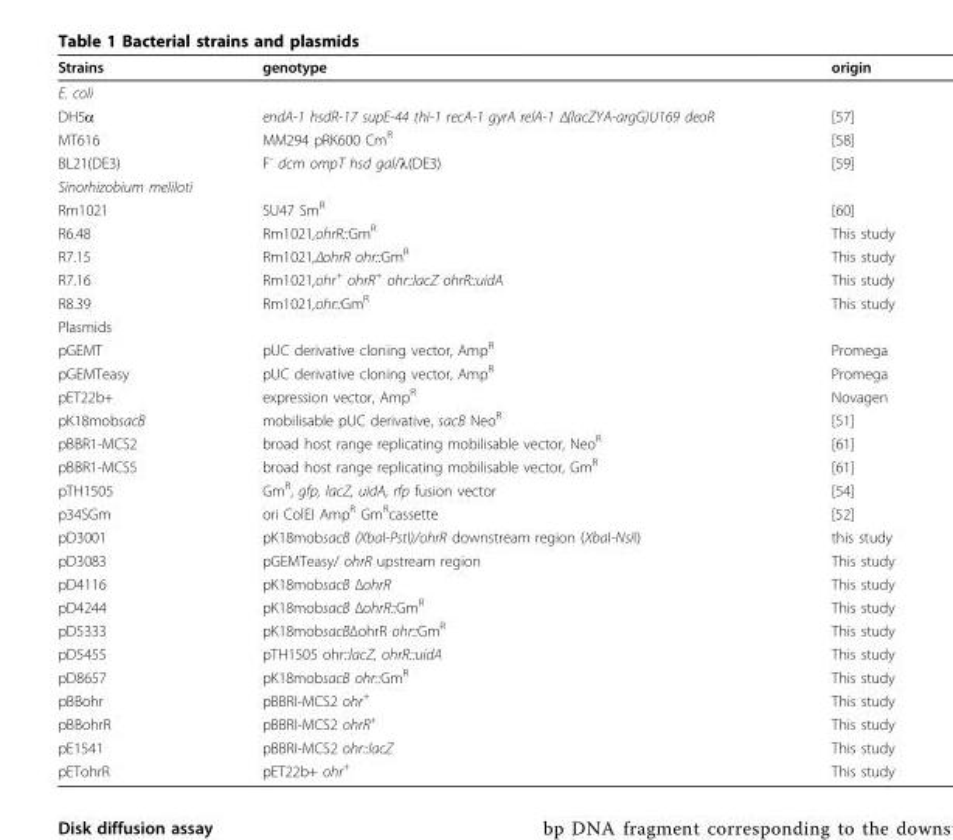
<table><thead><tr><td>Strains</td><td>genotype</td><td>origin</td></tr></thead><tbody><tr><td colspan="3">E. coli</td></tr><tr><td>DH5α</td><td>endA-1 hsdR-17 supE-44 thi-1 recA-1 gyrA relA-1 Δ(lacZYA-argG)U169 deoR</td><td>[57]</td></tr><tr><td>MT616</td><td>MM294 pRK600 Cm<sup>R</sup></td><td>[58]</td></tr><tr><td>BL21(DE3)</td><td>F<sup>-</sup> dcm ompT hsd gal/λ(DE3)</td><td>[59]</td></tr><tr><td colspan="3">Sinorhizobium meliloti</td></tr><tr><td>Rm1021</td><td>SU47 Sm<sup>R</sup></td><td>[60]</td></tr><tr><td>R6.48</td><td>Rm1021,ohrR::Gm<sup>R</sup></td><td>This study</td></tr><tr><td>R7.15</td><td>Rm1021,ΔohrR ohr::Gm<sup>R</sup></td><td>This study</td></tr><tr><td>R7.16</td><td>Rm1021,ohr<sup>+</sup> ohrR<sup>+</sup> ohr::lacZ ohrR::uidA</td><td>This study</td></tr><tr><td>R8.39</td><td>Rm1021,ohr::Gm<sup>R</sup></td><td>This study</td></tr><tr><td colspan="3">Plasmids</td></tr><tr><td>pGEMT</td><td>pUC derivative cloning vector, Amp<sup>R</sup></td><td>Promega</td></tr><tr><td>pGEMTeasy</td><td>pUC derivative cloning vector, Amp<sup>R</sup></td><td>Promega</td></tr><tr><td>pET22b+</td><td>expression vector, Amp<sup>R</sup></td><td>Novagen</td></tr><tr><td>pK18mobsacB</td><td>mobilisable pUC derivative, sacB Neo<sup>R</sup></td><td>[51]</td></tr><tr><td>pBBR1-MCS2</td><td>broad host range replicating mobilisable vector, Neo<sup>R</sup></td><td>[61]</td></tr><tr><td>pBBR1-MCS5</td><td>broad host range replicating mobilisable vector, Gm<sup>R</sup></td><td>[61]</td></tr><tr><td>pTH1505</td><td>Gm<sup>R</sup>, gfp, lacZ, uidA, rfp fusion vector</td><td>[54]</td></tr><tr><td>p34SGm</td><td>ori ColEI Amp<sup>R</sup> Gm<sup>R</sup>cassette</td><td>[52]</td></tr><tr><td>pD3001</td><td>pK18mobsacB (XbaI-PstI)/ohrR downstream region (XbaI-NsiI)</td><td>this study</td></tr><tr><td>pD3083</td><td>pGEMTeasy/ ohrR upstream region</td><td>This study</td></tr><tr><td>pD4116</td><td>pK18mobsacB ΔohrR</td><td>This study</td></tr><tr><td>pD4244</td><td>pK18mobsacB ΔohrR::Gm<sup>R</sup></td><td>This study</td></tr><tr><td>pD5333</td><td>pK18mobsacBΔohrR ohr::Gm<sup>R</sup></td><td>This study</td></tr><tr><td>pD5455</td><td>pTH1505 ohr::lacZ, ohrR::uidA</td><td>This study</td></tr><tr><td>pD8657</td><td>pK18mobsacB ohr::Gm<sup>R</sup></td><td>This study</td></tr><tr><td>pBBohr</td><td>pBBRI-MCS2 ohr<sup>+</sup></td><td>This study</td></tr><tr><td>pBBohrR</td><td>pBBRI-MCS2 ohrR<sup>+</sup></td><td>This study</td></tr><tr><td>pE1541</td><td>pBBRI-MCS2 ohr::lacZ</td><td>This study</td></tr><tr><td>pETohrR</td><td>pET22b+ ohr<sup>+</sup></td><td>This study</td></tr></tbody></table>